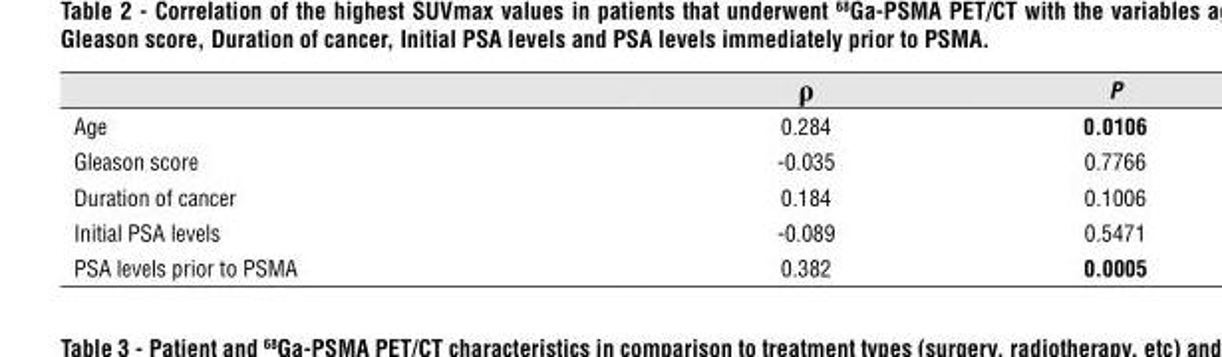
<table><thead><tr><td></td><td>ρ</td><td>P</td></tr></thead><tbody><tr><td>Age</td><td>0.284</td><td>0.0106</td></tr><tr><td>Gleason score</td><td>-0.035</td><td>0.7766</td></tr><tr><td>Duration of cancer</td><td>0.184</td><td>0.1006</td></tr><tr><td>Initial PSA levels</td><td>-0.089</td><td>0.5471</td></tr><tr><td>PSA levels prior to PSMA</td><td>0.382</td><td>0.0005</td></tr></tbody></table>